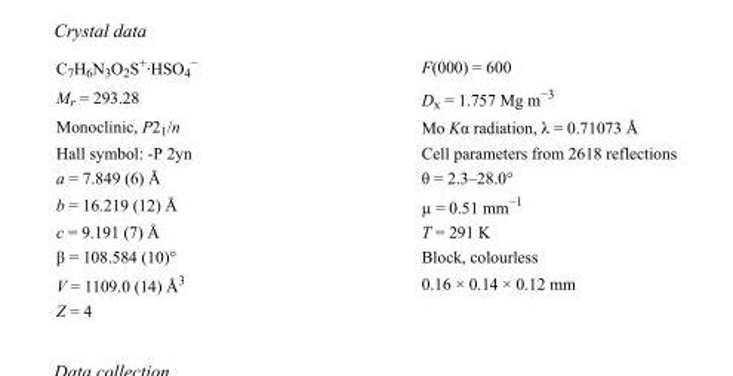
<table><tbody><tr><td>C<sub>7</sub>H<sub>6</sub>N<sub>3</sub>O<sub>2</sub>S<sup>+</sup>·HSO<sub>4</sub> <sup>−</sup></td><td>F(000) = 600</td></tr><tr><td>M<sub>r</sub> = 293.28</td><td>D<sub>x</sub> = 1.757 Mg m<sup>−3</sup></td></tr><tr><td>Monoclinic, P2<sub>1</sub>/n</td><td>Mo Kα radiation, λ = 0.71073 Å</td></tr><tr><td>Hall symbol: -P 2yn</td><td>Cell parameters from 2618 reflections</td></tr><tr><td>a = 7.849 (6) Å</td><td>θ = 2.3–28.0°</td></tr><tr><td>b = 16.219 (12) Å</td><td>µ = 0.51 mm<sup>−1</sup></td></tr><tr><td>c = 9.191 (7) Å</td><td>T = 291 K</td></tr><tr><td>β = 108.584 (10)°</td><td>Block, colourless</td></tr><tr><td>V = 1109.0 (14) Å<sup>3</sup></td><td>0.16 × 0.14 × 0.12 mm</td></tr><tr><td>Z = 4</td><td></td></tr></tbody></table>